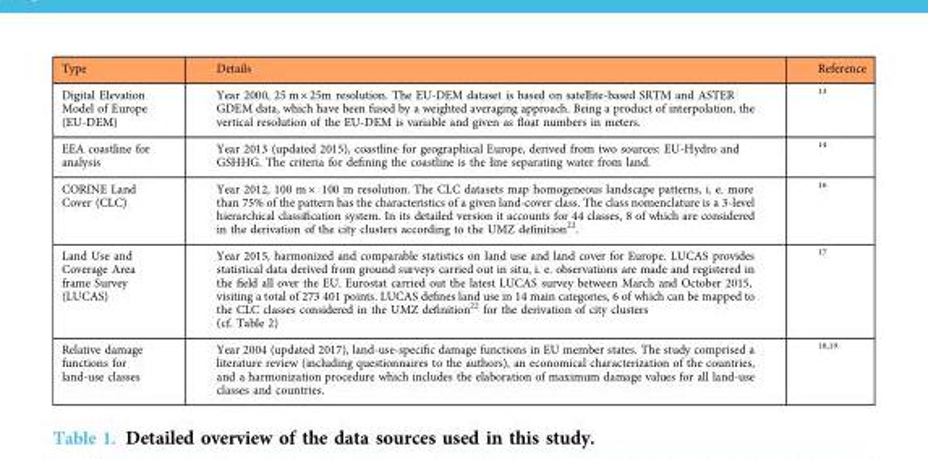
<table><thead><tr><td>Type</td><td>Details</td><td>Reference</td></tr></thead><tbody><tr><td>Digital Elevation Model of Europe (EU-DEM)</td><td>Year 2000, 25 m × 25m resolution. The EU-DEM dataset is based on satellite-based SRTM and ASTER GDEM data, which have been fused by a weighted averaging approach. Being a product of interpolation, the vertical resolution of the EU-DEM is variable and given as float numbers in meters.</td><td><sup>13</sup></td></tr><tr><td>EEA coastline for analysis</td><td>Year 2013 (updated 2015), coastline for geographical Europe, derived from two sources: EU-Hydro and GSHHG. The criteria for defining the coastline is the line separating water from land.</td><td><sup>14</sup></td></tr><tr><td>CORINE Land Cover (CLC)</td><td>Year 2012, 100 m × 100 m resolution. The CLC datasets map homogeneous landscape patterns, i. e. more than 75% of the pattern has the characteristics of a given land-cover class. The class nomenclature is a 3-level hierarchical classification system. In its detailed version it accounts for 44 classes, 8 of which are considered in the derivation of the city clusters according to the UMZ definition<sup>22</sup>.</td><td><sup>16</sup></td></tr><tr><td>Land Use and Coverage Area frame Survey (LUCAS)</td><td>Year 2015, harmonized and comparable statistics on land use and land cover for Europe. LUCAS provides statistical data derived from ground surveys carried out in situ, i. e. observations are made and registered in the field all over the EU. Eurostat carried out the latest LUCAS survey between March and October 2015, visiting a total of 273 401 points. LUCAS defines land use in 14 main categories, 6 of which can be mapped to the CLC classes considered in the UMZ definition<sup>22</sup> for the derivation of city clusters (cf. Table 2)</td><td><sup>17</sup></td></tr><tr><td>Relative damage functions for land-use classes</td><td>Year 2004 (updated 2017), land-use-specific damage functions in EU member states. The study comprised a literature review (including questionnaires to the authors), an economical characterization of the countries, and a harmonization procedure which includes the elaboration of maximum damage values for all land-use classes and countries.</td><td><sup>18,19</sup></td></tr></tbody></table>